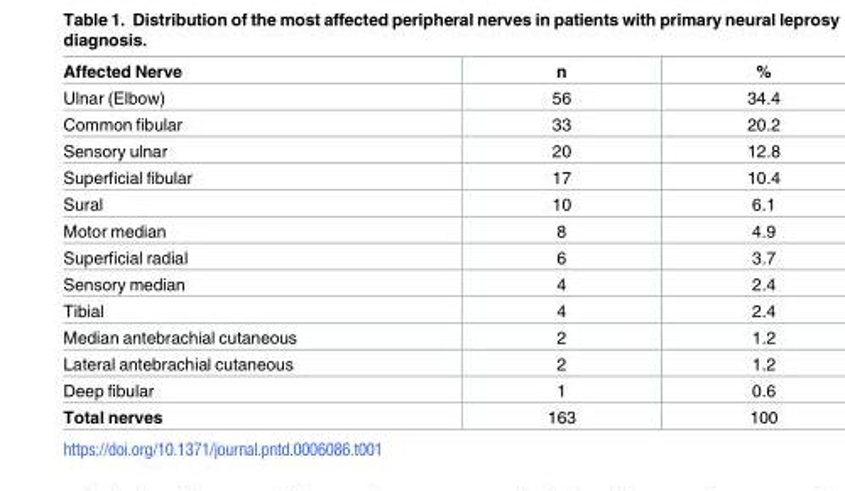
<table><thead><tr><td>Affected Nerve</td><td>n</td><td>%</td></tr></thead><tbody><tr><td>Ulnar (Elbow)</td><td>56</td><td>34.4</td></tr><tr><td>Common fibular</td><td>33</td><td>20.2</td></tr><tr><td>Sensory ulnar</td><td>20</td><td>12.8</td></tr><tr><td>Superficial fibular</td><td>17</td><td>10.4</td></tr><tr><td>Sural</td><td>10</td><td>6.1</td></tr><tr><td>Motor median</td><td>8</td><td>4.9</td></tr><tr><td>Superficial radial</td><td>6</td><td>3.7</td></tr><tr><td>Sensory median</td><td>4</td><td>2.4</td></tr><tr><td>Tibial</td><td>4</td><td>2.4</td></tr><tr><td>Median antebrachial cutaneous</td><td>2</td><td>1.2</td></tr><tr><td>Lateral antebrachial cutaneous</td><td>2</td><td>1.2</td></tr><tr><td>Deep fibular</td><td>1</td><td>0.6</td></tr><tr><td>Total nerves</td><td>163</td><td>100</td></tr></tbody></table>